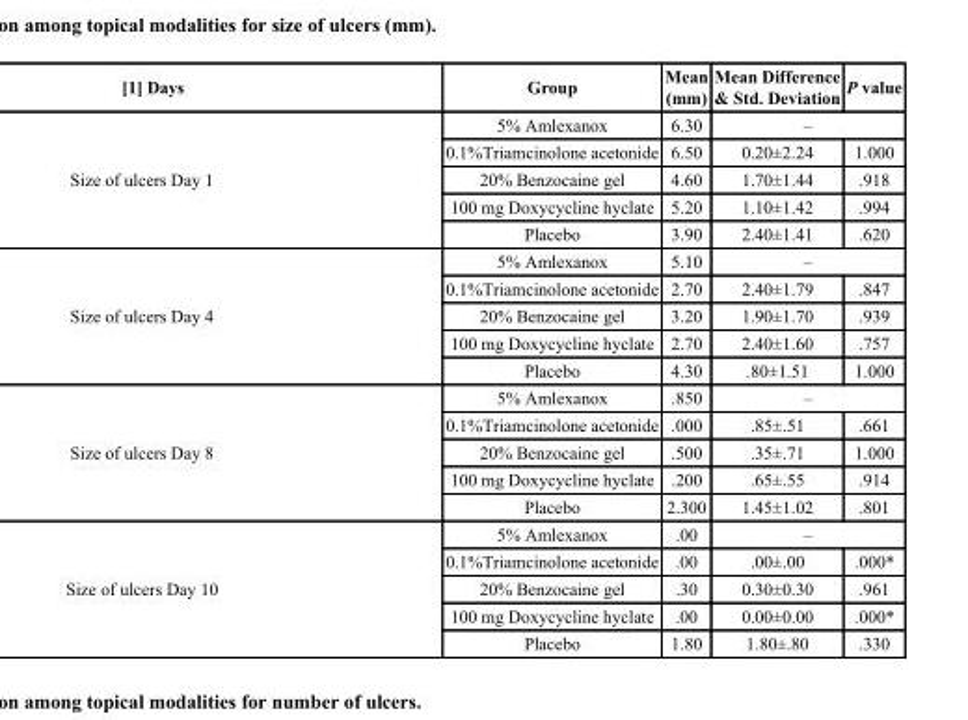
<table><thead><tr><td>[1] Days</td><td>Group</td><td>Mean (mm)</td><td>Mean Difference &amp; Std. Deviation</td><td>P value</td></tr></thead><tbody><tr><td rowspan="5">Size of ulcers Day 1</td><td>5% Amlexanox</td><td>6.30</td><td colspan="2">–</td></tr><tr><td>0.1%Triamcinolone acetonide</td><td>6.50</td><td>0.20±2.24</td><td>1.000</td></tr><tr><td>20% Benzocaine gel</td><td>4.60</td><td>1.70±1.44</td><td>.918</td></tr><tr><td>100 mg Doxycycline hyclate</td><td>5.20</td><td>1.10±1.42</td><td>.994</td></tr><tr><td>Placebo</td><td>3.90</td><td>2.40±1.41</td><td>.620</td></tr><tr><td rowspan="5">Size of ulcers Day 4</td><td>5% Amlexanox</td><td>5.10</td><td colspan="2">–</td></tr><tr><td>0.1%Triamcinolone acetonide</td><td>2.70</td><td>2.40±1.79</td><td>.847</td></tr><tr><td>20% Benzocaine gel</td><td>3.20</td><td>1.90±1.70</td><td>.939</td></tr><tr><td>100 mg Doxycycline hyclate</td><td>2.70</td><td>2.40±1.60</td><td>.757</td></tr><tr><td>Placebo</td><td>4.30</td><td>.80±1.51</td><td>1.000</td></tr><tr><td rowspan="5">Size of ulcers Day 8</td><td>5% Amlexanox</td><td>.850</td><td colspan="2">–</td></tr><tr><td>0.1%Triamcinolone acetonide</td><td>.000</td><td>.85±.51</td><td>.661</td></tr><tr><td>20% Benzocaine gel</td><td>.500</td><td>.35±.71</td><td>1.000</td></tr><tr><td>100 mg Doxycycline hyclate</td><td>.200</td><td>.65±.55</td><td>.914</td></tr><tr><td>Placebo</td><td>2.300</td><td>1.45±1.02</td><td>.801</td></tr><tr><td rowspan="5">Size of ulcers Day 10</td><td>5% Amlexanox</td><td>.00</td><td colspan="2">–</td></tr><tr><td>0.1%Triamcinolone acetonide</td><td>.00</td><td>.00±.00</td><td>.000*</td></tr><tr><td>20% Benzocaine gel</td><td>.30</td><td>0.30±0.30</td><td>.961</td></tr><tr><td>100 mg Doxycycline hyclate</td><td>.00</td><td>0.00±0.00</td><td>.000*</td></tr><tr><td>Placebo</td><td>1.80</td><td>1.80±.80</td><td>.330</td></tr></tbody></table>